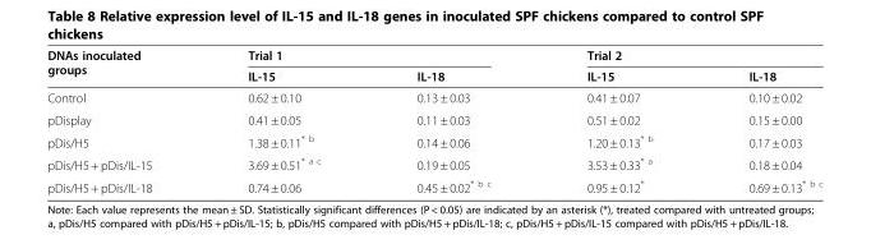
<table><thead><tr><td rowspan="2">DNAs inoculated groups</td><td colspan="2">Trial 1</td><td colspan="2">Trial 2</td></tr><tr><td>IL-15</td><td>IL-18</td><td>IL-15</td><td>IL-18</td></tr></thead><tbody><tr><td>Control</td><td>0.62 ± 0.10</td><td>0.13 ± 0.03</td><td>0.41 ± 0.07</td><td>0.10 ± 0.02</td></tr><tr><td>pDisplay</td><td>0.41 ± 0.05</td><td>0.11 ± 0.03</td><td>0.51 ± 0.02</td><td>0.15 ± 0.00</td></tr><tr><td>pDis/H5</td><td>1.38 ± 0.11<sup>* b</sup></td><td>0.14 ± 0.06</td><td>1.20 ± 0.13<sup>* b</sup></td><td>0.17 ± 0.03</td></tr><tr><td>pDis/H5 + pDis/IL-15</td><td>3.69 ± 0.51<sup>* a c</sup></td><td>0.19 ± 0.05</td><td>3.53 ± 0.33<sup>* a</sup></td><td>0.18 ± 0.04</td></tr><tr><td>pDis/H5 + pDis/IL-18</td><td>0.74 ± 0.06</td><td>0.45 ± 0.02<sup>* b c</sup></td><td>0.95 ± 0.12*</td><td>0.69 ± 0.13<sup>* b c</sup></td></tr></tbody></table>